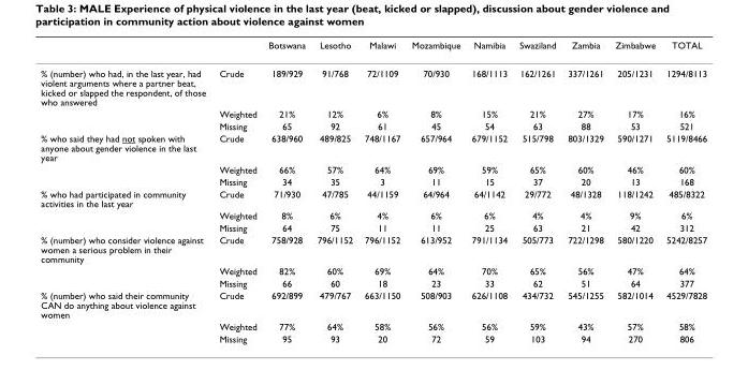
<table><thead><tr><td></td><td></td><td>Botswana</td><td>Lesotho</td><td>Malawi</td><td>Mozambique</td><td>Namibia</td><td>Swaziland</td><td>Zambia</td><td>Zimbabwe</td><td>TOTAL</td></tr></thead><tbody><tr><td rowspan="3">% (number) who had, in the last year, had violent arguments where a partner beat, kicked or slapped the respondent, of those who answered</td><td>Crude</td><td>189/929</td><td>91/768</td><td>72/1109</td><td>70/930</td><td>168/1113</td><td>162/1261</td><td>337/1261</td><td>205/1231</td><td>1294/8113</td></tr><tr><td>Weighted</td><td>21%</td><td>12%</td><td>6%</td><td>8%</td><td>15%</td><td>21%</td><td>27%</td><td>17%</td><td>16%</td></tr><tr><td>Missing</td><td>65</td><td>92</td><td>61</td><td>45</td><td>54</td><td>63</td><td>88</td><td>53</td><td>521</td></tr><tr><td rowspan="3">% who said they had not spoken with anyone about gender violence in the last year</td><td>Crude</td><td>638/960</td><td>489/825</td><td>748/1167</td><td>657/964</td><td>679/1152</td><td>515/798</td><td>803/1329</td><td>590/1271</td><td>5119/8466</td></tr><tr><td>Weighted</td><td>66%</td><td>57%</td><td>64%</td><td>69%</td><td>59%</td><td>65%</td><td>60%</td><td>46%</td><td>60%</td></tr><tr><td>Missing</td><td>34</td><td>35</td><td>3</td><td>11</td><td>15</td><td>37</td><td>20</td><td>13</td><td>168</td></tr><tr><td rowspan="3">% who had participated in community activities in the last year</td><td>Crude</td><td>71/930</td><td>47/785</td><td>44/1159</td><td>64/964</td><td>64/1142</td><td>29/772</td><td>48/1328</td><td>118/1242</td><td>485/8322</td></tr><tr><td>Weighted</td><td>8%</td><td>6%</td><td>4%</td><td>6%</td><td>6%</td><td>4%</td><td>4%</td><td>9%</td><td>6%</td></tr><tr><td>Missing</td><td>64</td><td>75</td><td>11</td><td>11</td><td>25</td><td>63</td><td>21</td><td>42</td><td>312</td></tr><tr><td rowspan="3">% (number) who consider violence against women a serious problem in their community</td><td>Crude</td><td>758/928</td><td>796/1152</td><td>796/1152</td><td>613/952</td><td>791/1134</td><td>505/773</td><td>722/1298</td><td>580/1220</td><td>5242/8257</td></tr><tr><td>Weighted</td><td>82%</td><td>60%</td><td>69%</td><td>64%</td><td>70%</td><td>65%</td><td>56%</td><td>47%</td><td>64%</td></tr><tr><td>Missing</td><td>66</td><td>60</td><td>18</td><td>23</td><td>33</td><td>62</td><td>51</td><td>64</td><td>377</td></tr><tr><td rowspan="3">% (number) who said their community CAN do anything about violence against women</td><td>Crude</td><td>692/899</td><td>479/767</td><td>663/1150</td><td>508/903</td><td>626/1108</td><td>434/732</td><td>545/1255</td><td>582/1014</td><td>4529/7828</td></tr><tr><td>Weighted</td><td>77%</td><td>64%</td><td>58%</td><td>56%</td><td>56%</td><td>59%</td><td>43%</td><td>57%</td><td>58%</td></tr><tr><td>Missing</td><td>95</td><td>93</td><td>20</td><td>72</td><td>59</td><td>103</td><td>94</td><td>270</td><td>806</td></tr></tbody></table>